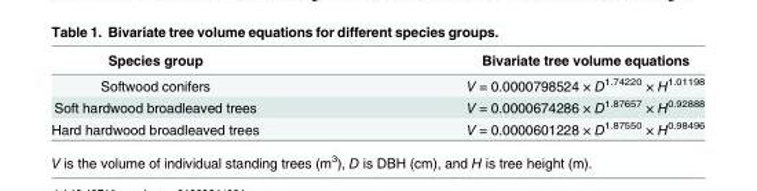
<table><thead><tr><td>Species group</td><td>Bivariate tree volume equations</td></tr></thead><tbody><tr><td>Softwood conifers</td><td>V = 0.0000798524 × D<sup>1.74220</sup> × H<sup>1.01198</sup></td></tr><tr><td>Soft hardwood broadleaved trees</td><td>V = 0.0000674286 × D<sup>1.87657</sup> × H<sup>0.92888</sup></td></tr><tr><td>Hard hardwood broadleaved trees</td><td>V = 0.0000601228 × D<sup>1.87550</sup> × H<sup>0.98496</sup></td></tr></tbody></table>